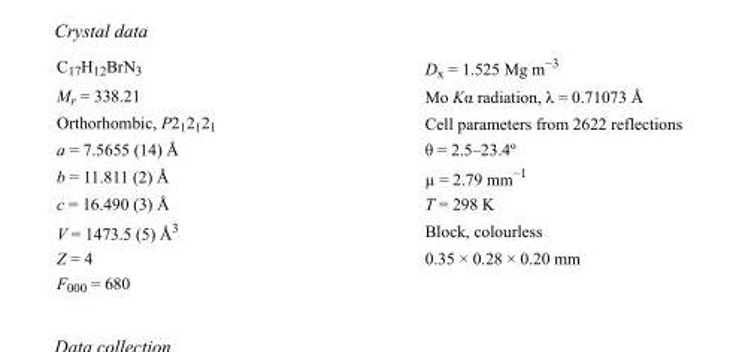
<table><tbody><tr><td>C<sub>17</sub>H<sub>12</sub>BrN<sub>3</sub></td><td>D<sub>x</sub> = 1.525 Mg m<sup>−3</sup></td></tr><tr><td>M<sub>r</sub> = 338.21</td><td>Mo Kα radiation, λ = 0.71073 Å</td></tr><tr><td>Orthorhombic, P2<sub>1</sub>2<sub>1</sub>2<sub>1</sub></td><td>Cell parameters from 2622 reflections</td></tr><tr><td>a = 7.5655 (14) Å</td><td>θ = 2.5–23.4º</td></tr><tr><td>b = 11.811 (2) Å</td><td>µ = 2.79 mm<sup>−1</sup></td></tr><tr><td>c = 16.490 (3) Å</td><td>T = 298 K</td></tr><tr><td>V = 1473.5 (5) Å<sup>3</sup></td><td>Block, colourless</td></tr><tr><td>Z = 4</td><td>0.35 × 0.28 × 0.20 mm</td></tr><tr><td>F000 = 680</td><td></td></tr></tbody></table>